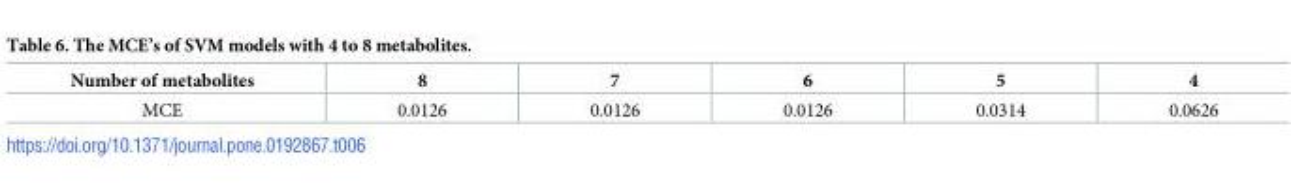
<table><thead><tr><td>Number of metabolites</td><td>8</td><td>7</td><td>6</td><td>5</td><td>4</td></tr></thead><tbody><tr><td>MCE</td><td>0.0126</td><td>0.0126</td><td>0.0126</td><td>0.0314</td><td>0.0626</td></tr></tbody></table>